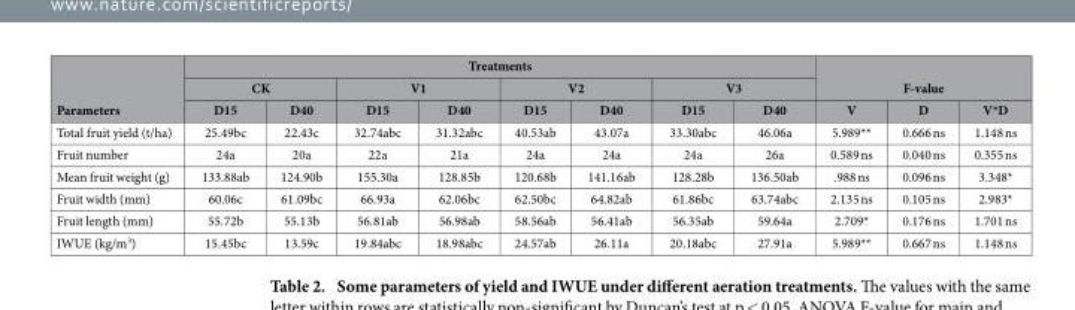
<table><thead><tr><td rowspan="3">Parameters</td><td colspan="8">Treatments</td><td></td><td></td><td></td></tr><tr><td colspan="2">CK</td><td colspan="2">V1</td><td colspan="2">V2</td><td colspan="2">V3</td><td colspan="3">F-value</td></tr><tr><td>D15</td><td>D40</td><td>D15</td><td>D40</td><td>D15</td><td>D40</td><td>D15</td><td>D40</td><td>V</td><td>D</td><td>V*D</td></tr></thead><tbody><tr><td>Total fruit yield (t/ha)</td><td>25.49bc</td><td>22.43c</td><td>32.74abc</td><td>31.32abc</td><td>40.53ab</td><td>43.07a</td><td>33.30abc</td><td>46.06a</td><td>5.989**</td><td>0.666 ns</td><td>1.148 ns</td></tr><tr><td>Fruit number</td><td>24a</td><td>20a</td><td>22a</td><td>21a</td><td>24a</td><td>24a</td><td>24a</td><td>26a</td><td>0.589 ns</td><td>0.040 ns</td><td>0.355 ns</td></tr><tr><td>Mean fruit weight (g)</td><td>133.88ab</td><td>124.90b</td><td>155.30a</td><td>128.85b</td><td>120.68b</td><td>141.16ab</td><td>128.28b</td><td>136.50ab</td><td>.988 ns</td><td>0.096 ns</td><td>3.348*</td></tr><tr><td>Fruit width (mm)</td><td>60.06c</td><td>61.09bc</td><td>66.93a</td><td>62.06bc</td><td>62.50bc</td><td>64.82ab</td><td>61.86bc</td><td>63.74abc</td><td>2.135 ns</td><td>0.105 ns</td><td>2.983*</td></tr><tr><td>Fruit length (mm)</td><td>55.72b</td><td>55.13b</td><td>56.81ab</td><td>56.98ab</td><td>58.56ab</td><td>56.41ab</td><td>56.35ab</td><td>59.64a</td><td>2.709*</td><td>0.176 ns</td><td>1.701 ns</td></tr><tr><td>IWUE (kg/m<sup>3</sup>)</td><td>15.45bc</td><td>13.59c</td><td>19.84abc</td><td>18.98abc</td><td>24.57ab</td><td>26.11a</td><td>20.18abc</td><td>27.91a</td><td>5.989**</td><td>0.667 ns</td><td>1.148 ns</td></tr></tbody></table>